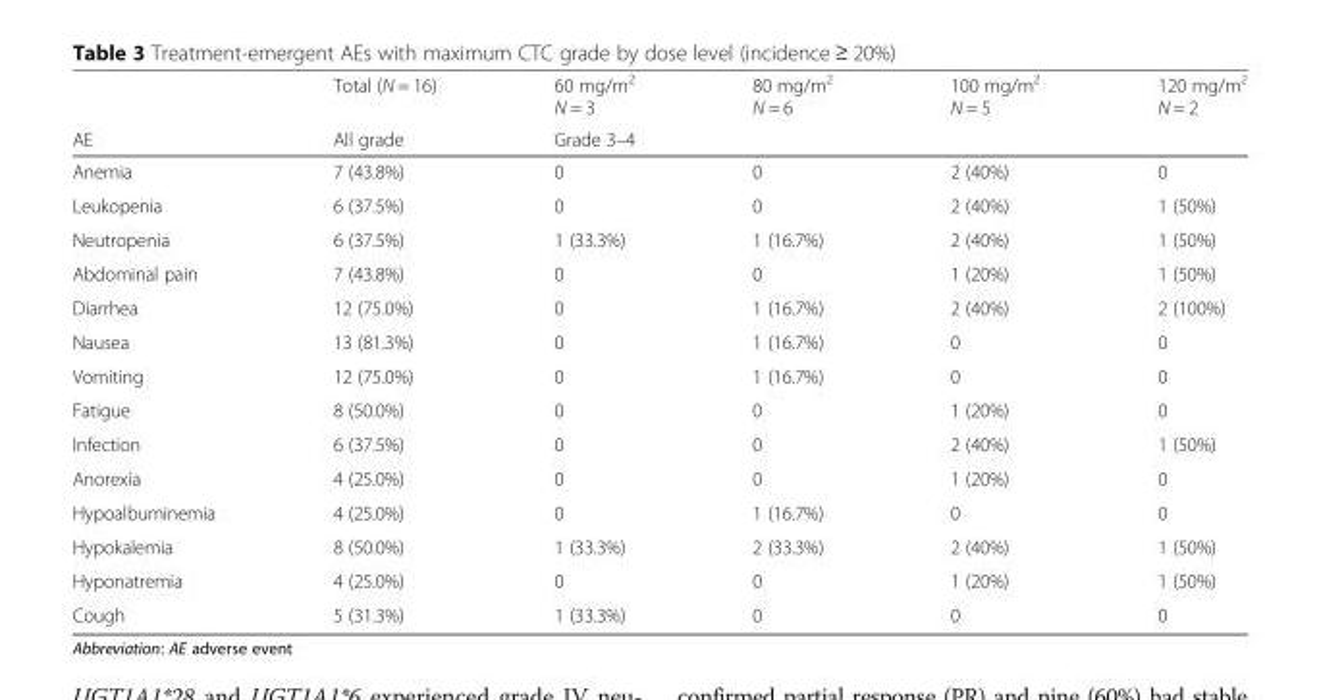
<table><thead><tr><td rowspan="2">AE</td><td rowspan="2">Total (N = 16) All grade</td><td>60 mg/m<sup>2</sup> N = 3</td><td>80 mg/m<sup>2</sup> N = 6</td><td>100 mg/m<sup>2</sup> N = 5</td><td>120 mg/m<sup>2</sup> N = 2</td></tr><tr><td colspan="4">Grade 3–4</td></tr></thead><tbody><tr><td>Anemia</td><td>7 (43.8%)</td><td>0</td><td>0</td><td>2 (40%)</td><td>0</td></tr><tr><td>Leukopenia</td><td>6 (37.5%)</td><td>0</td><td>0</td><td>2 (40%)</td><td>1 (50%)</td></tr><tr><td>Neutropenia</td><td>6 (37.5%)</td><td>1 (33.3%)</td><td>1 (16.7%)</td><td>2 (40%)</td><td>1 (50%)</td></tr><tr><td>Abdominal pain</td><td>7 (43.8%)</td><td>0</td><td>0</td><td>1 (20%)</td><td>1 (50%)</td></tr><tr><td>Diarrhea</td><td>12 (75.0%)</td><td>0</td><td>1 (16.7%)</td><td>2 (40%)</td><td>2 (100%)</td></tr><tr><td>Nausea</td><td>13 (81.3%)</td><td>0</td><td>1 (16.7%)</td><td>0</td><td>0</td></tr><tr><td>Vomiting</td><td>12 (75.0%)</td><td>0</td><td>1 (16.7%)</td><td>0</td><td>0</td></tr><tr><td>Fatigue</td><td>8 (50.0%)</td><td>0</td><td>0</td><td>1 (20%)</td><td>0</td></tr><tr><td>Infection</td><td>6 (37.5%)</td><td>0</td><td>0</td><td>2 (40%)</td><td>1 (50%)</td></tr><tr><td>Anorexia</td><td>4 (25.0%)</td><td>0</td><td>0</td><td>1 (20%)</td><td>0</td></tr><tr><td>Hypoalbuminemia</td><td>4 (25.0%)</td><td>0</td><td>1 (16.7%)</td><td>0</td><td>0</td></tr><tr><td>Hypokalemia</td><td>8 (50.0%)</td><td>1 (33.3%)</td><td>2 (33.3%)</td><td>2 (40%)</td><td>1 (50%)</td></tr><tr><td>Hyponatremia</td><td>4 (25.0%)</td><td>0</td><td>0</td><td>1 (20%)</td><td>1 (50%)</td></tr><tr><td>Cough</td><td>5 (31.3%)</td><td>1 (33.3%)</td><td>0</td><td>0</td><td>0</td></tr></tbody></table>